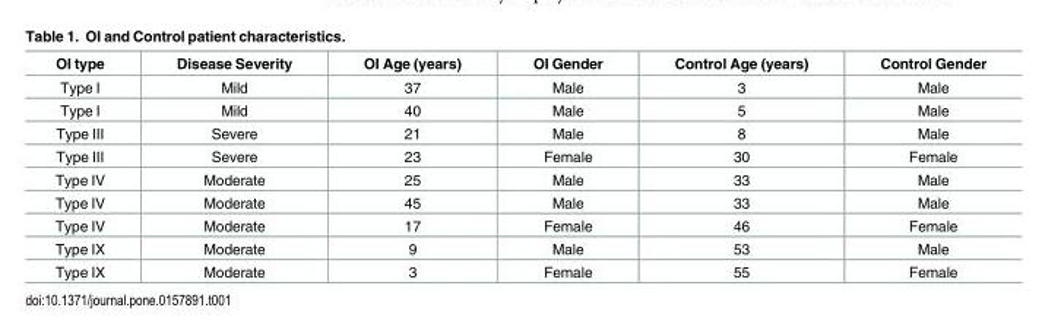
<table><thead><tr><td>OI type</td><td>Disease Severity</td><td>OI Age (years)</td><td>OI Gender</td><td>Control Age (years)</td><td>Control Gender</td></tr></thead><tbody><tr><td>Type I</td><td>Mild</td><td>37</td><td>Male</td><td>3</td><td>Male</td></tr><tr><td>Type I</td><td>Mild</td><td>40</td><td>Male</td><td>5</td><td>Male</td></tr><tr><td>Type III</td><td>Severe</td><td>21</td><td>Male</td><td>8</td><td>Male</td></tr><tr><td>Type III</td><td>Severe</td><td>23</td><td>Female</td><td>30</td><td>Female</td></tr><tr><td>Type IV</td><td>Moderate</td><td>25</td><td>Male</td><td>33</td><td>Male</td></tr><tr><td>Type IV</td><td>Moderate</td><td>45</td><td>Male</td><td>33</td><td>Male</td></tr><tr><td>Type IV</td><td>Moderate</td><td>17</td><td>Female</td><td>46</td><td>Female</td></tr><tr><td>Type IX</td><td>Moderate</td><td>9</td><td>Male</td><td>53</td><td>Male</td></tr><tr><td>Type IX</td><td>Moderate</td><td>3</td><td>Female</td><td>55</td><td>Female</td></tr></tbody></table>